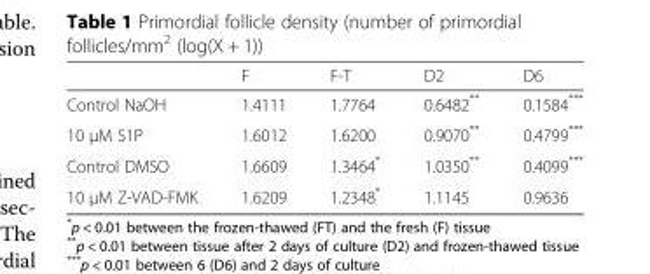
<table><thead><tr><td></td><td>F</td><td>F-T</td><td>D2</td><td>D6</td></tr></thead><tbody><tr><td>Control NaOH</td><td>1.4111</td><td>1.7764</td><td>0.6482**</td><td>0.1584***</td></tr><tr><td>10 μM S1P</td><td>1.6012</td><td>1.6200</td><td>0.9070**</td><td>0.4799***</td></tr><tr><td>Control DMSO</td><td>1.6609</td><td>1.3464*</td><td>1.0350**</td><td>0.4099***</td></tr><tr><td>10 μM Z-VAD-FMK</td><td>1.6209</td><td>1.2348*</td><td>1.1145</td><td>0.9636</td></tr></tbody></table>